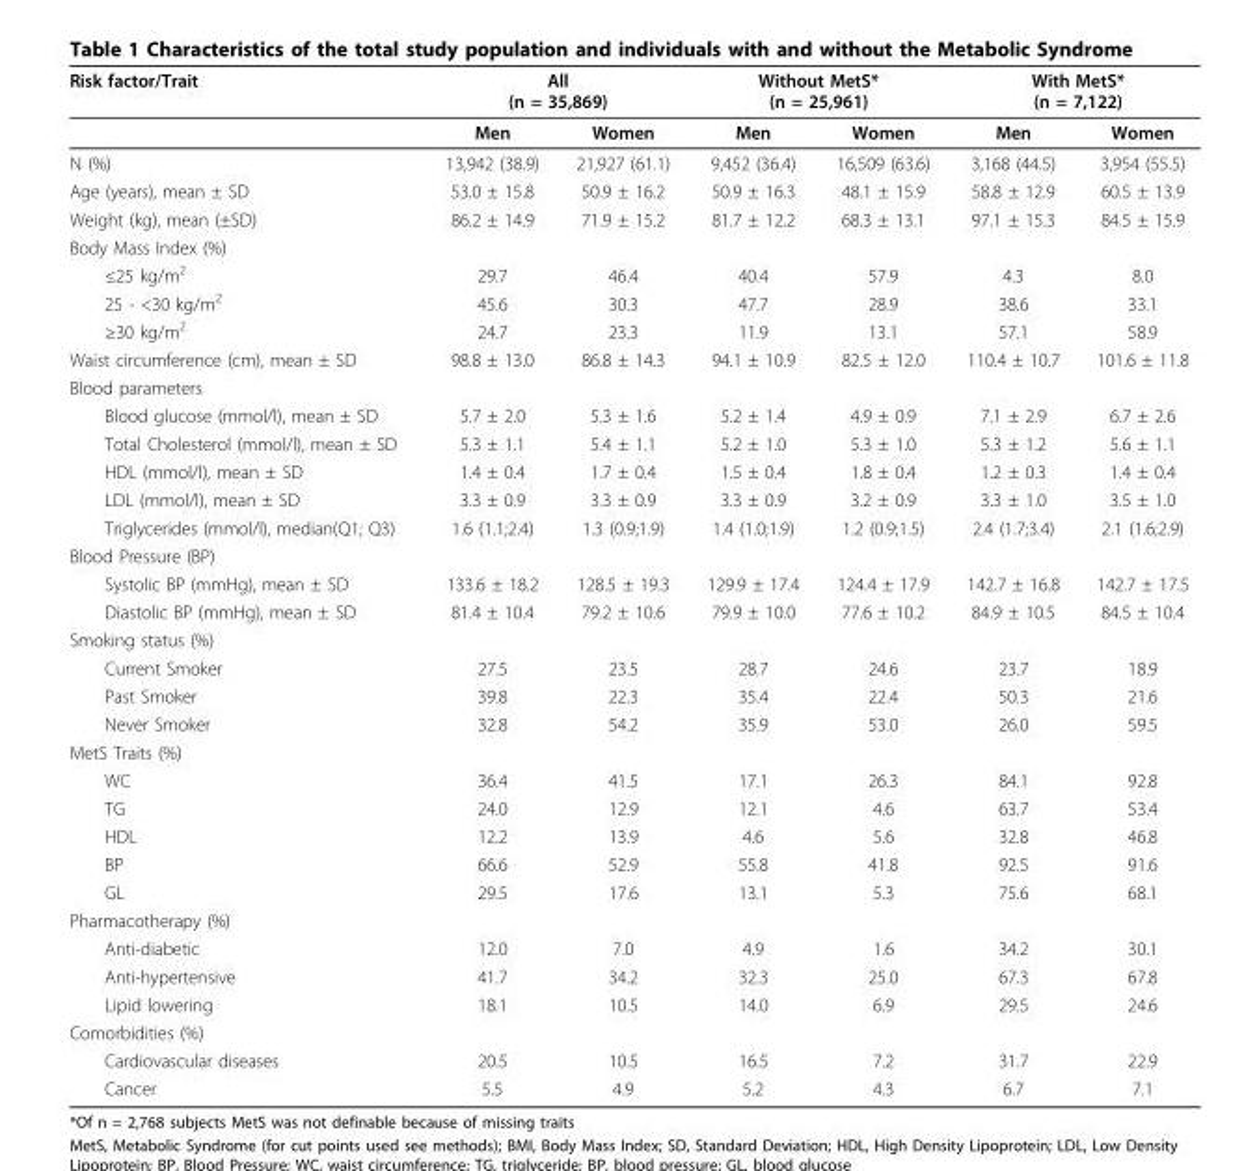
<table><thead><tr><td rowspan="2">Risk factor/Trait</td><td colspan="2">All (n = 35,869)</td><td colspan="2">Without MetS* (n = 25,961)</td><td colspan="2">With MetS* (n = 7,122)</td></tr><tr><td>Men</td><td>Women</td><td>Men</td><td>Women</td><td>Men</td><td>Women</td></tr></thead><tbody><tr><td>N (%)</td><td>13,942 (38.9)</td><td>21,927 (61.1)</td><td>9,452 (36.4)</td><td>16,509 (63.6)</td><td>3,168 (44.5)</td><td>3,954 (55.5)</td></tr><tr><td>Age (years), mean ± SD</td><td>53.0 ± 15.8</td><td>50.9 ± 16.2</td><td>50.9 ± 16.3</td><td>48.1 ± 15.9</td><td>58.8 ± 12.9</td><td>60.5 ± 13.9</td></tr><tr><td>Weight (kg), mean (±SD)</td><td>86.2 ± 14.9</td><td>71.9 ± 15.2</td><td>81.7 ± 12.2</td><td>68.3 ± 13.1</td><td>97.1 ± 15.3</td><td>84.5 ± 15.9</td></tr><tr><td colspan="7">Body Mass Index (%)</td></tr><tr><td>≤25 kg/m<sup>2</sup></td><td>29.7</td><td>46.4</td><td>40.4</td><td>57.9</td><td>4.3</td><td>8.0</td></tr><tr><td>25 - &lt;30 kg/m<sup>2</sup></td><td>45.6</td><td>30.3</td><td>47.7</td><td>28.9</td><td>38.6</td><td>33.1</td></tr><tr><td>≥30 kg/m<sup>2</sup></td><td>24.7</td><td>23.3</td><td>11.9</td><td>13.1</td><td>57.1</td><td>58.9</td></tr><tr><td>Waist circumference (cm), mean ± SD</td><td>98.8 ± 13.0</td><td>86.8 ± 14.3</td><td>94.1 ± 10.9</td><td>82.5 ± 12.0</td><td>110.4 ± 10.7</td><td>101.6 ± 11.8</td></tr><tr><td colspan="7">Blood parameters</td></tr><tr><td>Blood glucose (mmol/l), mean ± SD</td><td>5.7 ± 2.0</td><td>5.3 ± 1.6</td><td>5.2 ± 1.4</td><td>4.9 ± 0.9</td><td>7.1 ± 2.9</td><td>6.7 ± 2.6</td></tr><tr><td>Total Cholesterol (mmol/l), mean ± SD</td><td>5.3 ± 1.1</td><td>5.4 ± 1.1</td><td>5.2 ± 1.0</td><td>5.3 ± 1.0</td><td>5.3 ± 1.2</td><td>5.6 ± 1.1</td></tr><tr><td>HDL (mmol/l), mean ± SD</td><td>1.4 ± 0.4</td><td>1.7 ± 0.4</td><td>1.5 ± 0.4</td><td>1.8 ± 0.4</td><td>1.2 ± 0.3</td><td>1.4 ± 0.4</td></tr><tr><td>LDL (mmol/l), mean ± SD</td><td>3.3 ± 0.9</td><td>3.3 ± 0.9</td><td>3.3 ± 0.9</td><td>3.2 ± 0.9</td><td>3.3 ± 1.0</td><td>3.5 ± 1.0</td></tr><tr><td>Triglycerides (mmol/l), median(Q1; Q3)</td><td>1.6 (1.1;2.4)</td><td>1.3 (0.9;1.9)</td><td>1.4 (1.0;1.9)</td><td>1.2 (0.9;1.5)</td><td>2.4 (1.7;3.4)</td><td>2.1 (1.6;2.9)</td></tr><tr><td colspan="7">Blood Pressure (BP)</td></tr><tr><td>Systolic BP (mmHg), mean ± SD</td><td>133.6 ± 18.2</td><td>128.5 ± 19.3</td><td>129.9 ± 17.4</td><td>124.4 ± 17.9</td><td>142.7 ± 16.8</td><td>142.7 ± 17.5</td></tr><tr><td>Diastolic BP (mmHg), mean ± SD</td><td>81.4 ± 10.4</td><td>79.2 ± 10.6</td><td>79.9 ± 10.0</td><td>77.6 ± 10.2</td><td>84.9 ± 10.5</td><td>84.5 ± 10.4</td></tr><tr><td colspan="7">Smoking status (%)</td></tr><tr><td>Current Smoker</td><td>27.5</td><td>23.5</td><td>28.7</td><td>24.6</td><td>23.7</td><td>18.9</td></tr><tr><td>Past Smoker</td><td>39.8</td><td>22.3</td><td>35.4</td><td>22.4</td><td>50.3</td><td>21.6</td></tr><tr><td>Never Smoker</td><td>32.8</td><td>54.2</td><td>35.9</td><td>53.0</td><td>26.0</td><td>59.5</td></tr><tr><td colspan="7">MetS Traits (%)</td></tr><tr><td>WC</td><td>36.4</td><td>41.5</td><td>17.1</td><td>26.3</td><td>84.1</td><td>92.8</td></tr><tr><td>TG</td><td>24.0</td><td>12.9</td><td>12.1</td><td>4.6</td><td>63.7</td><td>53.4</td></tr><tr><td>HDL</td><td>12.2</td><td>13.9</td><td>4.6</td><td>5.6</td><td>32.8</td><td>46.8</td></tr><tr><td>BP</td><td>66.6</td><td>52.9</td><td>55.8</td><td>41.8</td><td>92.5</td><td>91.6</td></tr><tr><td>GL</td><td>29.5</td><td>17.6</td><td>13.1</td><td>5.3</td><td>75.6</td><td>68.1</td></tr><tr><td colspan="7">Pharmacotherapy (%)</td></tr><tr><td>Anti-diabetic</td><td>12.0</td><td>7.0</td><td>4.9</td><td>1.6</td><td>34.2</td><td>30.1</td></tr><tr><td>Anti-hypertensive</td><td>41.7</td><td>34.2</td><td>32.3</td><td>25.0</td><td>67.3</td><td>67.8</td></tr><tr><td>Lipid lowering</td><td>18.1</td><td>10.5</td><td>14.0</td><td>6.9</td><td>29.5</td><td>24.6</td></tr><tr><td colspan="7">Comorbidities (%)</td></tr><tr><td>Cardiovascular diseases</td><td>20.5</td><td>10.5</td><td>16.5</td><td>7.2</td><td>31.7</td><td>22.9</td></tr><tr><td>Cancer</td><td>5.5</td><td>4.9</td><td>5.2</td><td>4.3</td><td>6.7</td><td>7.1</td></tr></tbody></table>